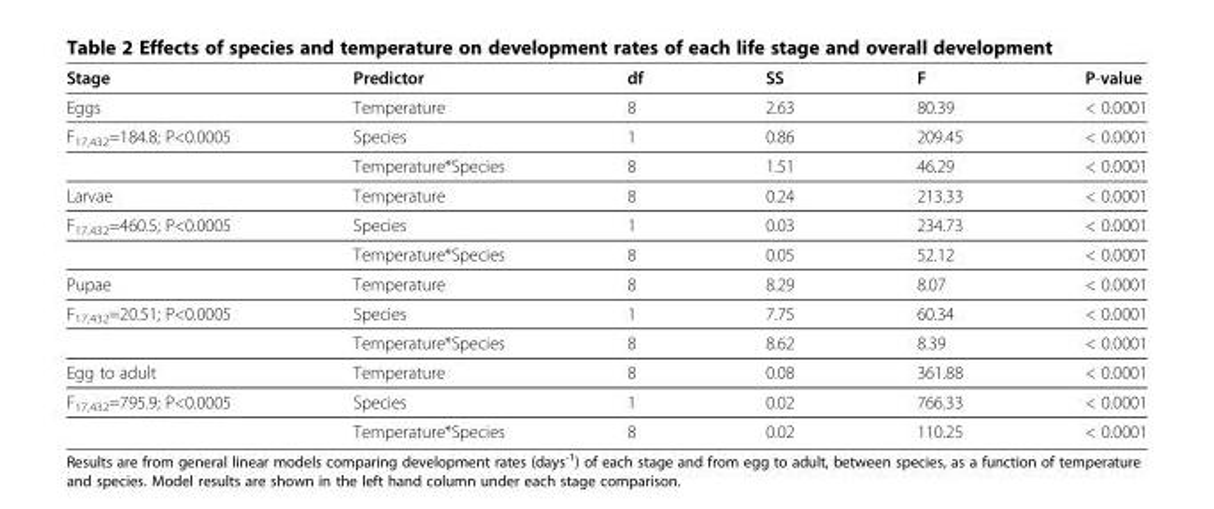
<table><thead><tr><td>Stage</td><td>Predictor</td><td>df</td><td>SS</td><td>F</td><td>P-value</td></tr></thead><tbody><tr><td>Eggs</td><td>Temperature</td><td>8</td><td>2.63</td><td>80.39</td><td>&lt; 0.0001</td></tr><tr><td rowspan="2">F<sub>17,432</sub>=184.8; P&lt;0.0005</td><td>Species</td><td>1</td><td>0.86</td><td>209.45</td><td>&lt; 0.0001</td></tr><tr><td>Temperature*Species</td><td>8</td><td>1.51</td><td>46.29</td><td>&lt; 0.0001</td></tr><tr><td>Larvae</td><td>Temperature</td><td>8</td><td>0.24</td><td>213.33</td><td>&lt; 0.0001</td></tr><tr><td rowspan="2">F<sub>17,432</sub>=460.5; P&lt;0.0005</td><td>Species</td><td>1</td><td>0.03</td><td>234.73</td><td>&lt; 0.0001</td></tr><tr><td>Temperature*Species</td><td>8</td><td>0.05</td><td>52.12</td><td>&lt; 0.0001</td></tr><tr><td>Pupae</td><td>Temperature</td><td>8</td><td>8.29</td><td>8.07</td><td>&lt; 0.0001</td></tr><tr><td rowspan="2">F<sub>17,432</sub>=20.51; P&lt;0.0005</td><td>Species</td><td>1</td><td>7.75</td><td>60.34</td><td>&lt; 0.0001</td></tr><tr><td>Temperature*Species</td><td>8</td><td>8.62</td><td>8.39</td><td>&lt; 0.0001</td></tr><tr><td>Egg to adult</td><td>Temperature</td><td>8</td><td>0.08</td><td>361.88</td><td>&lt; 0.0001</td></tr><tr><td rowspan="2">F<sub>17,432</sub>=795.9; P&lt;0.0005</td><td>Species</td><td>1</td><td>0.02</td><td>766.33</td><td>&lt; 0.0001</td></tr><tr><td>Temperature*Species</td><td>8</td><td>0.02</td><td>110.25</td><td>&lt; 0.0001</td></tr></tbody></table>